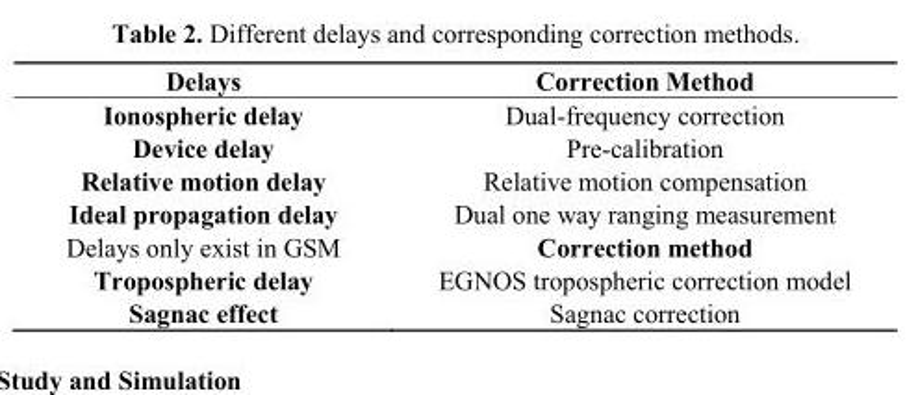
<table><thead><tr><td>Delays</td><td>Correction Method</td></tr></thead><tbody><tr><td>Ionospheric delay</td><td>Dual-frequency correction</td></tr><tr><td>Device delay</td><td>Pre-calibration</td></tr><tr><td>Relative motion delay</td><td>Relative motion compensation</td></tr><tr><td>Ideal propagation delay</td><td>Dual one way ranging measurement</td></tr><tr><td>Delays only exist in GSM</td><td>Correction method</td></tr><tr><td>Tropospheric delay Sagnac effect</td><td>EGNOS tropospheric correction model Sagnac correction</td></tr></tbody></table>